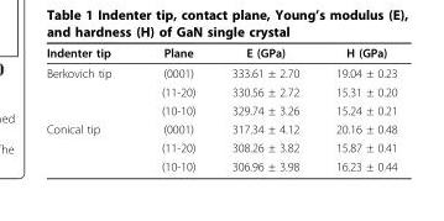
<table><thead><tr><td>Indenter tip</td><td>Plane</td><td>E (GPa)</td><td>H (GPa)</td></tr></thead><tbody><tr><td rowspan="3">Berkovich tip</td><td>(0001)</td><td>333.61 ± 2.70</td><td>19.04 ± 0.23</td></tr><tr><td>(11-20)</td><td>330.56 ± 2.72</td><td>15.31 ± 0.20</td></tr><tr><td>(10-10)</td><td>329.74 ± 3.26</td><td>15.24 ± 0.21</td></tr><tr><td rowspan="3">Conical tip</td><td>(0001)</td><td>317.34 ± 4.12</td><td>20.16 ± 0.48</td></tr><tr><td>(11-20)</td><td>308.26 ± 3.82</td><td>15.87 ± 0.41</td></tr><tr><td>(10-10)</td><td>306.96 ± 3.98</td><td>16.23 ± 0.44</td></tr></tbody></table>